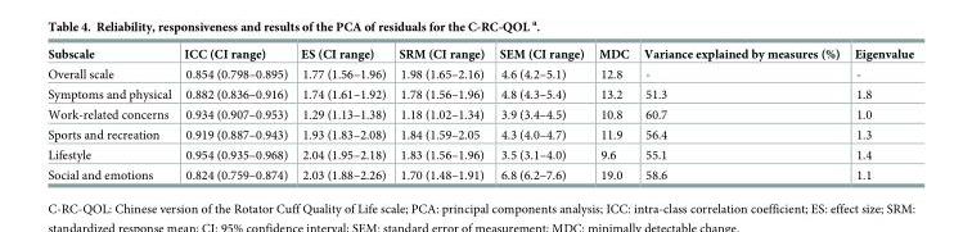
<table><thead><tr><td>Subscale</td><td>ICC (CI range)</td><td>ES (CI range)</td><td>SRM (CI range)</td><td>SEM (CI range)</td><td>MDC</td><td>Variance explained by measures (%)</td><td>Eigenvalue</td></tr></thead><tbody><tr><td>Overall scale</td><td>0.854 (0.798–0.895)</td><td>1.77 (1.56–1.96)</td><td>1.98 (1.65–2.16)</td><td>4.6 (4.2–5.1)</td><td>12.8</td><td>-</td><td>-</td></tr><tr><td>Symptoms and physical</td><td>0.882 (0.836–0.916)</td><td>1.74 (1.61–1.92)</td><td>1.78 (1.56–1.96)</td><td>4.8 (4.3–5.4)</td><td>13.2</td><td>51.3</td><td>1.8</td></tr><tr><td>Work-related concerns</td><td>0.934 (0.907–0.953)</td><td>1.29 (1.13–1.38)</td><td>1.18 (1.02–1.34)</td><td>3.9 (3.4–4.5)</td><td>10.8</td><td>60.7</td><td>1.0</td></tr><tr><td>Sports and recreation</td><td>0.919 (0.887–0.943)</td><td>1.93 (1.83–2.08)</td><td>1.84 (1.59–2.05</td><td>4.3 (4.0–4.7)</td><td>11.9</td><td>56.4</td><td>1.3</td></tr><tr><td>Lifestyle</td><td>0.954 (0.935–0.968)</td><td>2.04 (1.95–2.18)</td><td>1.83 (1.56–1.96)</td><td>3.5 (3.1–4.0)</td><td>9.6</td><td>55.1</td><td>1.4</td></tr><tr><td>Social and emotions</td><td>0.824 (0.759–0.874)</td><td>2.03 (1.88–2.26)</td><td>1.70 (1.48–1.91)</td><td>6.8 (6.2–7.6)</td><td>19.0</td><td>58.6</td><td>1.1</td></tr></tbody></table>